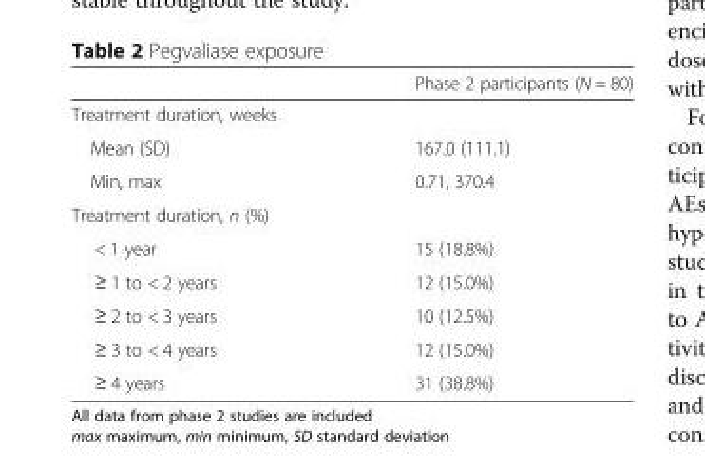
<table><thead><tr><td></td><td>Phase 2 participants (N = 80)</td></tr></thead><tbody><tr><td colspan="2">Treatment duration, weeks</td></tr><tr><td>Mean (SD)</td><td>167.0 (111.1)</td></tr><tr><td>Min, max</td><td>0.71, 370.4</td></tr><tr><td colspan="2">Treatment duration, n (%)</td></tr><tr><td>&lt; 1 year</td><td>15 (18.8%)</td></tr><tr><td>≥ 1 to &lt; 2 years</td><td>12 (15.0%)</td></tr><tr><td>≥ 2 to &lt; 3 years</td><td>10 (12.5%)</td></tr><tr><td>≥ 3 to &lt; 4 years</td><td>12 (15.0%)</td></tr><tr><td>≥ 4 years</td><td>31 (38.8%)</td></tr></tbody></table>